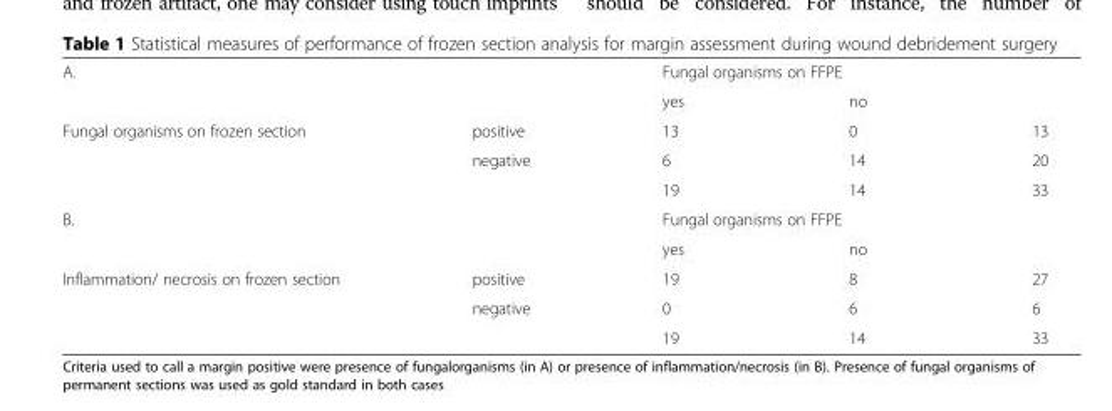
<table><tbody><tr><td rowspan="2">A.</td><td></td><td colspan="3">Fungal organisms on FFPE</td></tr><tr><td></td><td>yes</td><td>no</td><td></td></tr><tr><td rowspan="3">Fungal organisms on frozen section</td><td>positive</td><td>13</td><td>0</td><td>13</td></tr><tr><td>negative</td><td>6</td><td>14</td><td>20</td></tr><tr><td></td><td>19</td><td>14</td><td>33</td></tr><tr><td rowspan="2">B.</td><td></td><td colspan="3">Fungal organisms on FFPE</td></tr><tr><td></td><td>yes</td><td>no</td><td></td></tr><tr><td rowspan="3">Inflammation/ necrosis on frozen section</td><td>positive</td><td>19</td><td>8</td><td>27</td></tr><tr><td>negative</td><td>0</td><td>6</td><td>6</td></tr><tr><td></td><td>19</td><td>14</td><td>33</td></tr></tbody></table>